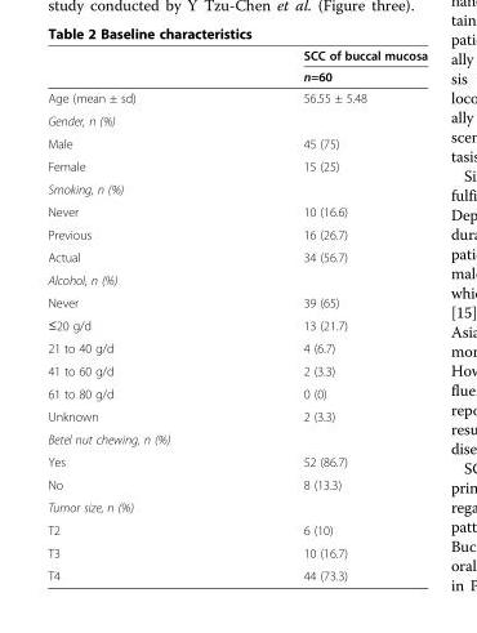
<table><thead><tr><td rowspan="2"></td><td rowspan="2">SCC of buccal mucosa n=60</td></tr><tr></tr></thead><tbody><tr><td>Age (mean ± sd)</td><td>56.55 ± 5.48</td></tr><tr><td colspan="2">Gender, n (%)</td></tr><tr><td>Male</td><td>45 (75)</td></tr><tr><td>Female</td><td>15 (25)</td></tr><tr><td colspan="2">Smoking, n (%)</td></tr><tr><td>Never</td><td>10 (16.6)</td></tr><tr><td>Previous</td><td>16 (26.7)</td></tr><tr><td>Actual</td><td>34 (56.7)</td></tr><tr><td colspan="2">Alcohol, n (%)</td></tr><tr><td>Never</td><td>39 (65)</td></tr><tr><td>≤20 g/d</td><td>13 (21.7)</td></tr><tr><td>21 to 40 g/d</td><td>4 (6.7)</td></tr><tr><td>41 to 60 g/d</td><td>2 (3.3)</td></tr><tr><td>61 to 80 g/d</td><td>0 (0)</td></tr><tr><td>Unknown</td><td>2 (3.3)</td></tr><tr><td colspan="2">Betel nut chewing, n (%)</td></tr><tr><td>Yes</td><td>52 (86.7)</td></tr><tr><td>No</td><td>8 (13.3)</td></tr><tr><td colspan="2">Tumor size, n (%)</td></tr><tr><td>T2</td><td>6 (10)</td></tr><tr><td>T3</td><td>10 (16.7)</td></tr><tr><td>T4</td><td>44 (73.3)</td></tr></tbody></table>